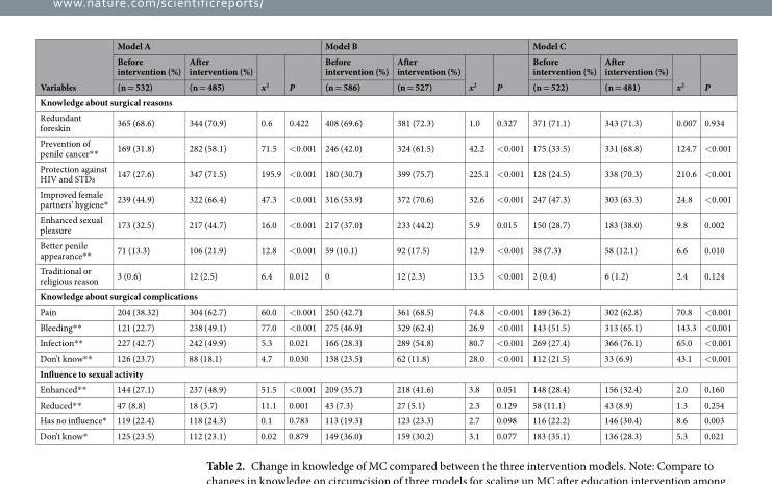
<table><thead><tr><td rowspan="3">Variables</td><td colspan="4">Model A</td><td colspan="4">Model B</td><td colspan="4">Model C</td></tr><tr><td rowspan="2">Before intervention (%) (n = 532)</td><td rowspan="2">After intervention (%) (n = 485)</td><td rowspan="2">x<sup>2</sup></td><td rowspan="2">P</td><td rowspan="2">Before intervention (%) (n = 586)</td><td rowspan="2">After intervention (%) (n = 527)</td><td rowspan="2">x<sup>2</sup></td><td rowspan="2">P</td><td rowspan="2">Before intervention (%) (n = 522)</td><td rowspan="2">After intervention (%) (n = 481)</td><td rowspan="2">x<sup>2</sup></td><td rowspan="2">P</td></tr><tr></tr></thead><tbody><tr><td colspan="13">Knowledge about surgical reasons</td></tr><tr><td>Redundant foreskin</td><td>365 (68.6)</td><td>344 (70.9)</td><td>0.6</td><td>0.422</td><td>408 (69.6)</td><td>381 (72.3)</td><td>1.0</td><td>0.327</td><td>371 (71.1)</td><td>343 (71.3)</td><td>0.007</td><td>0.934</td></tr><tr><td>Prevention of penile cancer**</td><td>169 (31.8)</td><td>282 (58.1)</td><td>71.5</td><td>&lt;0.001</td><td>246 (42.0)</td><td>324 (61.5)</td><td>42.2</td><td>&lt;0.001</td><td>175 (33.5)</td><td>331 (68.8)</td><td>124.7</td><td>&lt;0.001</td></tr><tr><td>Protection against HIV and STDs</td><td>147 (27.6)</td><td>347 (71.5)</td><td>195.9</td><td>&lt;0.001</td><td>180 (30.7)</td><td>399 (75.7)</td><td>225.1</td><td>&lt;0.001</td><td>128 (24.5)</td><td>338 (70.3)</td><td>210.6</td><td>&lt;0.001</td></tr><tr><td>Improved female partners’ hygiene*</td><td>239 (44.9)</td><td>322 (66.4)</td><td>47.3</td><td>&lt;0.001</td><td>316 (53.9)</td><td>372 (70.6)</td><td>32.6</td><td>&lt;0.001</td><td>247 (47.3)</td><td>303 (63.3)</td><td>24.8</td><td>&lt;0.001</td></tr><tr><td>Enhanced sexual pleasure</td><td>173 (32.5)</td><td>217 (44.7)</td><td>16.0</td><td>&lt;0.001</td><td>217 (37.0)</td><td>233 (44.2)</td><td>5.9</td><td>0.015</td><td>150 (28.7)</td><td>183 (38.0)</td><td>9.8</td><td>0.002</td></tr><tr><td>Better penile appearance**</td><td>71 (13.3)</td><td>106 (21.9)</td><td>12.8</td><td>&lt;0.001</td><td>59 (10.1)</td><td>92 (17.5)</td><td>12.9</td><td>&lt;0.001</td><td>38 (7.3)</td><td>58 (12.1)</td><td>6.6</td><td>0.010</td></tr><tr><td>Traditional or religious reason</td><td>3 (0.6)</td><td>12 (2.5)</td><td>6.4</td><td>0.012</td><td>0</td><td>12 (2.3)</td><td>13.5</td><td>&lt;0.001</td><td>2 (0.4)</td><td>6 (1.2)</td><td>2.4</td><td>0.124</td></tr><tr><td colspan="13">Knowledge about surgical complications</td></tr><tr><td>Pain</td><td>204 (38.32)</td><td>304 (62.7)</td><td>60.0</td><td>&lt;0.001</td><td>250 (42.7)</td><td>361 (68.5)</td><td>74.8</td><td>&lt;0.001</td><td>189 (36.2)</td><td>302 (62.8)</td><td>70.8</td><td>&lt;0.001</td></tr><tr><td>Bleeding**</td><td>121 (22.7)</td><td>238 (49.1)</td><td>77.0</td><td>&lt;0.001</td><td>275 (46.9)</td><td>329 (62.4)</td><td>26.9</td><td>&lt;0.001</td><td>143 (51.5)</td><td>313 (65.1)</td><td>143.3</td><td>&lt;0.001</td></tr><tr><td>Infection**</td><td>227 (42.7)</td><td>242 (49.9)</td><td>5.3</td><td>0.021</td><td>166 (28.3)</td><td>289 (54.8)</td><td>80.7</td><td>&lt;0.001</td><td>269 (27.4)</td><td>366 (76.1)</td><td>65.0</td><td>&lt;0.001</td></tr><tr><td>Don’t know**</td><td>126 (23.7)</td><td>88 (18.1)</td><td>4.7</td><td>0.030</td><td>138 (23.5)</td><td>62 (11.8)</td><td>28.0</td><td>&lt;0.001</td><td>112 (21.5)</td><td>33 (6.9)</td><td>43.1</td><td>&lt;0.001</td></tr><tr><td colspan="13">Influence to sexual activity</td></tr><tr><td>Enhanced**</td><td>144 (27.1)</td><td>237 (48.9)</td><td>51.5</td><td>&lt;0.001</td><td>209 (35.7)</td><td>218 (41.6)</td><td>3.8</td><td>0.051</td><td>148 (28.4)</td><td>156 (32.4)</td><td>2.0</td><td>0.160</td></tr><tr><td>Reduced**</td><td>47 (8.8)</td><td>18 (3.7)</td><td>11.1</td><td>0.001</td><td>43 (7.3)</td><td>27 (5.1)</td><td>2.3</td><td>0.129</td><td>58 (11.1)</td><td>43 (8.9)</td><td>1.3</td><td>0.254</td></tr><tr><td>Has no influence*</td><td>119 (22.4)</td><td>118 (24.3)</td><td>0.1</td><td>0.783</td><td>113 (19.3)</td><td>123 (23.3)</td><td>2.7</td><td>0.098</td><td>116 (22.2)</td><td>146 (30.4)</td><td>8.6</td><td>0.003</td></tr><tr><td>Don’t know*</td><td>125 (23.5)</td><td>112 (23.1)</td><td>0.02</td><td>0.879</td><td>149 (36.0)</td><td>159 (30.2)</td><td>3.1</td><td>0.077</td><td>183 (35.1)</td><td>136 (28.3)</td><td>5.3</td><td>0.021</td></tr></tbody></table>